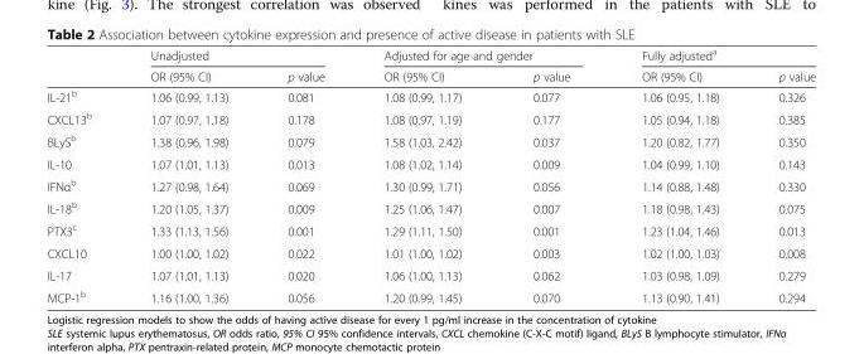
<table><thead><tr><td rowspan="2"></td><td colspan="2">Unadjusted</td><td colspan="2">Adjusted for age and gender</td><td colspan="2">Fully adjusted<sup>a</sup></td></tr><tr><td>OR (95% CI)</td><td>p value</td><td>OR (95% CI)</td><td>p value</td><td>OR (95% CI)</td><td>p value</td></tr></thead><tbody><tr><td>IL-21<sup>b</sup></td><td>1.06 (0.99, 1.13)</td><td>0.081</td><td>1.08 (0.99, 1.17)</td><td>0.077</td><td>1.06 (0.95, 1.18)</td><td>0.326</td></tr><tr><td>CXCL13<sup>b</sup></td><td>1.07 (0.97, 1.18)</td><td>0.178</td><td>1.08 (0.97, 1.19)</td><td>0.177</td><td>1.05 (0.94, 1.18)</td><td>0.385</td></tr><tr><td>BLyS<sup>b</sup></td><td>1.38 (0.96, 1.98)</td><td>0.079</td><td>1.58 (1.03, 2.42)</td><td>0.037</td><td>1.20 (0.82, 1.77)</td><td>0.350</td></tr><tr><td>IL-10</td><td>1.07 (1.01, 1.13)</td><td>0.013</td><td>1.08 (1.02, 1.14)</td><td>0.009</td><td>1.04 (0.99, 1.10)</td><td>0.143</td></tr><tr><td>IFNα<sup>b</sup></td><td>1.27 (0.98, 1.64)</td><td>0.069</td><td>1.30 (0.99, 1.71)</td><td>0.056</td><td>1.14 (0.88, 1.48)</td><td>0.330</td></tr><tr><td>IL-18<sup>b</sup></td><td>1.20 (1.05, 1.37)</td><td>0.009</td><td>1.25 (1.06, 1.47)</td><td>0.007</td><td>1.18 (0.98, 1.43)</td><td>0.075</td></tr><tr><td>PTX3<sup>c</sup></td><td>1.33 (1.13, 1.56)</td><td>0.001</td><td>1.29 (1.11, 1.50)</td><td>0.001</td><td>1.23 (1.04, 1.46)</td><td>0.013</td></tr><tr><td>CXCL10</td><td>1.00 (1.00, 1.02)</td><td>0.022</td><td>1.01 (1.00, 1.02)</td><td>0.003</td><td>1.02 (1.00, 1.03)</td><td>0.008</td></tr><tr><td>IL-17</td><td>1.07 (1.01, 1.13)</td><td>0.020</td><td>1.06 (1.00, 1.13)</td><td>0.062</td><td>1.03 (0.98, 1.09)</td><td>0.279</td></tr><tr><td>MCP-1<sup>b</sup></td><td>1.16 (1.00, 1.36)</td><td>0.056</td><td>1.20 (0.99, 1.45)</td><td>0.070</td><td>1.13 (0.90, 1.41)</td><td>0.294</td></tr></tbody></table>